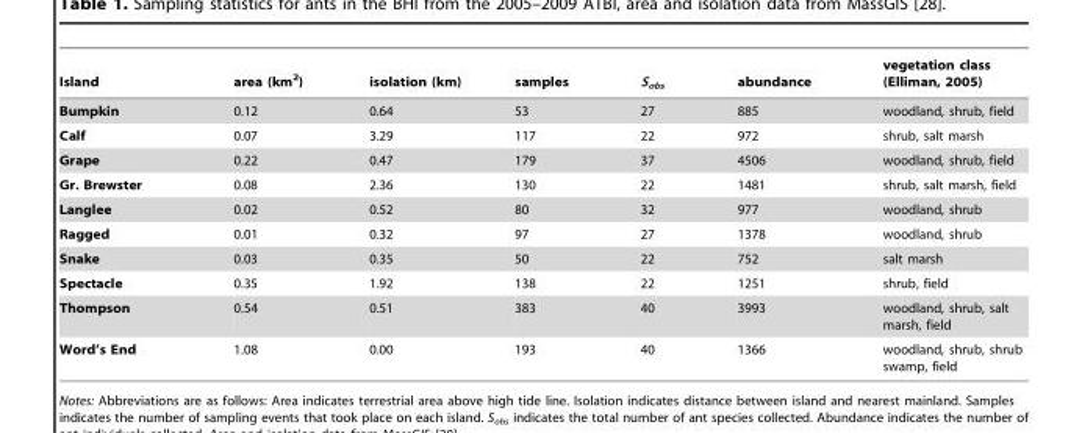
<table><thead><tr><td>Island</td><td>area (km<sup>2</sup>)</td><td>isolation (km)</td><td>samples</td><td>S<sub>obs</sub></td><td>abundance</td><td>vegetation class (Elliman, 2005)</td></tr></thead><tbody><tr><td>Bumpkin</td><td>0.12</td><td>0.64</td><td>53</td><td>27</td><td>885</td><td>woodland, shrub, field</td></tr><tr><td>Calf</td><td>0.07</td><td>3.29</td><td>117</td><td>22</td><td>972</td><td>shrub, salt marsh</td></tr><tr><td>Grape</td><td>0.22</td><td>0.47</td><td>179</td><td>37</td><td>4506</td><td>woodland, shrub, field</td></tr><tr><td>Gr. Brewster</td><td>0.08</td><td>2.36</td><td>130</td><td>22</td><td>1481</td><td>shrub, salt marsh, field</td></tr><tr><td>Langlee</td><td>0.02</td><td>0.52</td><td>80</td><td>32</td><td>977</td><td>woodland, shrub</td></tr><tr><td>Ragged</td><td>0.01</td><td>0.32</td><td>97</td><td>27</td><td>1378</td><td>woodland, shrub</td></tr><tr><td>Snake</td><td>0.03</td><td>0.35</td><td>50</td><td>22</td><td>752</td><td>salt marsh</td></tr><tr><td>Spectacle</td><td>0.35</td><td>1.92</td><td>138</td><td>22</td><td>1251</td><td>shrub, field</td></tr><tr><td>Thompson</td><td>0.54</td><td>0.51</td><td>383</td><td>40</td><td>3993</td><td>woodland, shrub, salt marsh, field</td></tr><tr><td>Word’s End</td><td>1.08</td><td>0.00</td><td>193</td><td>40</td><td>1366</td><td>woodland, shrub, shrub swamp, field</td></tr></tbody></table>